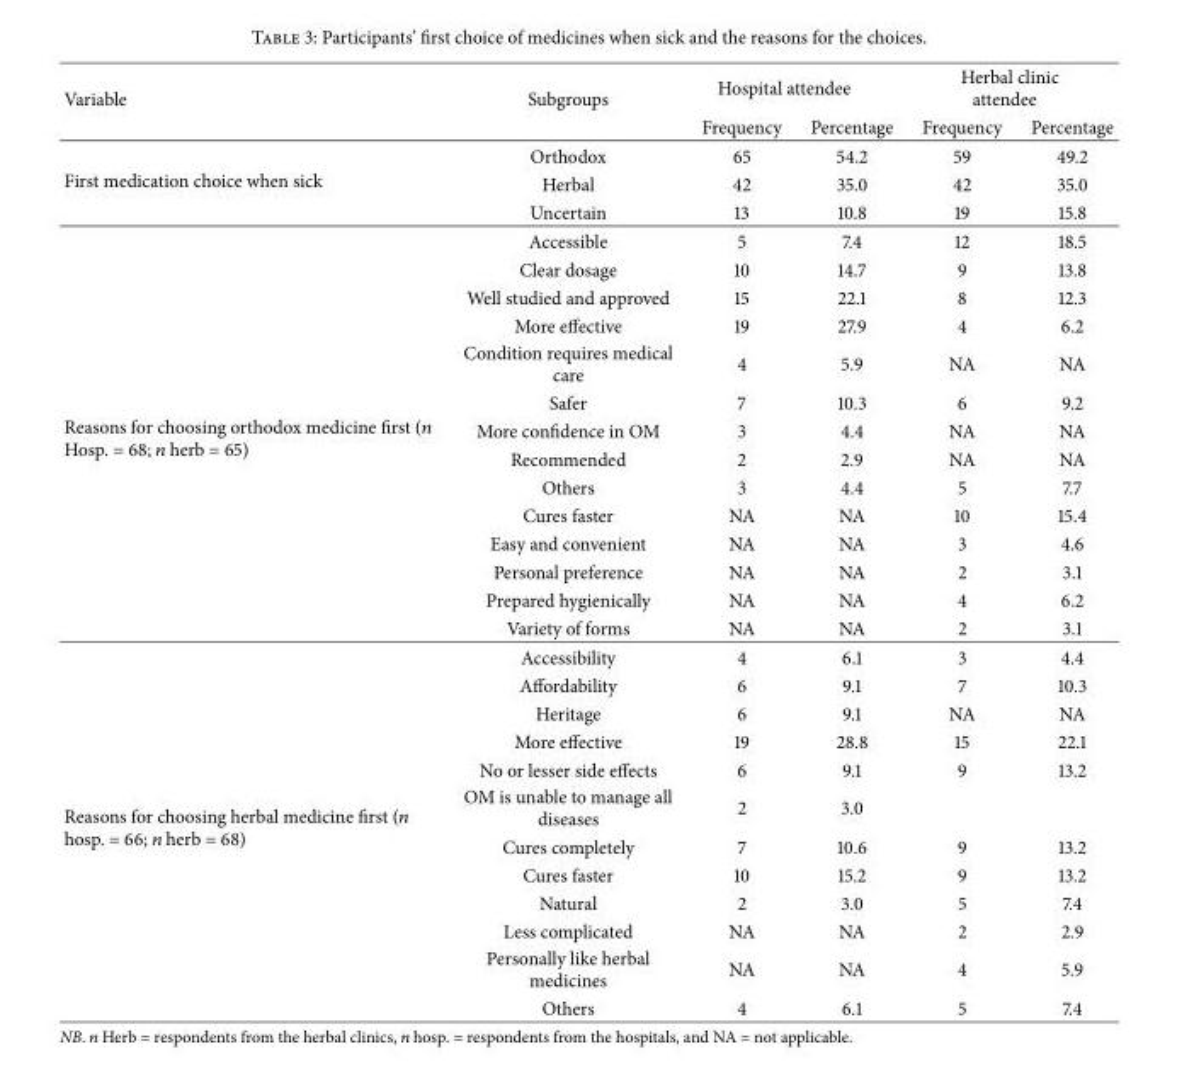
<table><thead><tr><td rowspan="2">Variable</td><td rowspan="2">Subgroups</td><td colspan="2">Hospital attendee</td><td colspan="2">Herbal clinic attendee</td></tr><tr><td>Frequency</td><td>Percentage</td><td>Frequency</td><td>Percentage</td></tr></thead><tbody><tr><td rowspan="3">First medication choice when sick</td><td>Orthodox</td><td>65</td><td>54.2</td><td>59</td><td>49.2</td></tr><tr><td>Herbal</td><td>42</td><td>35.0</td><td>42</td><td>35.0</td></tr><tr><td>Uncertain</td><td>13</td><td>10.8</td><td>19</td><td>15.8</td></tr><tr><td rowspan="14">Reasons for choosing orthodox medicine first (𝑛 Hosp. = 68; 𝑛 herb = 65)</td><td>Accessible</td><td>5</td><td>7.4</td><td>12</td><td>18.5</td></tr><tr><td>Clear dosage</td><td>10</td><td>14.7</td><td>9</td><td>13.8</td></tr><tr><td>Well studied and approved</td><td>15</td><td>22.1</td><td>8</td><td>12.3</td></tr><tr><td>More effective</td><td>19</td><td>27.9</td><td>4</td><td>6.2</td></tr><tr><td>Condition requires medical care</td><td>4</td><td>5.9</td><td>NA</td><td>NA</td></tr><tr><td>Safer</td><td>7</td><td>10.3</td><td>6</td><td>9.2</td></tr><tr><td>More confidence in OM</td><td>3</td><td>4.4</td><td>NA</td><td>NA</td></tr><tr><td>Recommended</td><td>2</td><td>2.9</td><td>NA</td><td>NA</td></tr><tr><td>Others</td><td>3</td><td>4.4</td><td>5</td><td>7.7</td></tr><tr><td>Cures faster</td><td>NA</td><td>NA</td><td>10</td><td>15.4</td></tr><tr><td>Easy and convenient</td><td>NA</td><td>NA</td><td>3</td><td>4.6</td></tr><tr><td>Personal preference</td><td>NA</td><td>NA</td><td>2</td><td>3.1</td></tr><tr><td>Prepared hygienically</td><td>NA</td><td>NA</td><td>4</td><td>6.2</td></tr><tr><td>Variety of forms</td><td>NA</td><td>NA</td><td>2</td><td>3.1</td></tr><tr><td rowspan="12">Reasons for choosing herbal medicine first (𝑛 hosp. = 66; 𝑛 herb = 68)</td><td>Accessibility</td><td>4</td><td>6.1</td><td>3</td><td>4.4</td></tr><tr><td>Affordability</td><td>6</td><td>9.1</td><td>7</td><td>10.3</td></tr><tr><td>Heritage</td><td>6</td><td>9.1</td><td>NA</td><td>NA</td></tr><tr><td>More effective</td><td>19</td><td>28.8</td><td>15</td><td>22.1</td></tr><tr><td>No or lesser side effects</td><td>6</td><td>9.1</td><td>9</td><td>13.2</td></tr><tr><td>OM is unable to manage all diseases</td><td>2</td><td>3.0</td><td></td><td></td></tr><tr><td>Cures completely</td><td>7</td><td>10.6</td><td>9</td><td>13.2</td></tr><tr><td>Cures faster</td><td>10</td><td>15.2</td><td>9</td><td>13.2</td></tr><tr><td>Natural</td><td>2</td><td>3.0</td><td>5</td><td>7.4</td></tr><tr><td>Less complicated</td><td>NA</td><td>NA</td><td>2</td><td>2.9</td></tr><tr><td>Personally like herbal medicines</td><td>NA</td><td>NA</td><td>4</td><td>5.9</td></tr><tr><td>Others</td><td>4</td><td>6.1</td><td>5</td><td>7.4</td></tr></tbody></table>